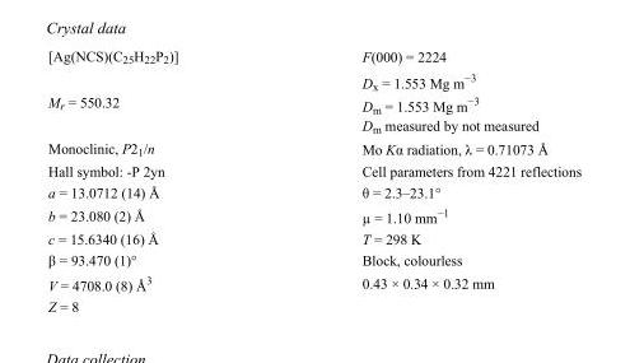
<table><tbody><tr><td>[Ag(NCS)(C<sub>25</sub>H<sub>22</sub>P<sub>2</sub>)]</td><td>F(000) = 2224</td></tr><tr><td>M<sub>r</sub> = 550.32</td><td>D<sub>x</sub> = 1.553 Mg m<sup>−3</sup> D<sub>m</sub> = 1.553 Mg m<sup>−3</sup> D<sub>m</sub> measured by not measured</td></tr><tr><td>Monoclinic, P2<sub>1</sub>/n</td><td>Mo Kα radiation, λ = 0.71073 Å</td></tr><tr><td>Hall symbol: -P 2yn</td><td>Cell parameters from 4221 reflections</td></tr><tr><td>a = 13.0712 (14) Å</td><td>θ = 2.3–23.1°</td></tr><tr><td>b = 23.080 (2) Å</td><td>µ = 1.10 mm<sup>−1</sup></td></tr><tr><td>c = 15.6340 (16) Å</td><td>T = 298 K</td></tr><tr><td>β = 93.470 (1)°</td><td>Block, colourless</td></tr><tr><td>V = 4708.0 (8) Å<sup>3</sup></td><td>0.43 × 0.34 × 0.32 mm</td></tr><tr><td>Z = 8</td><td></td></tr></tbody></table>